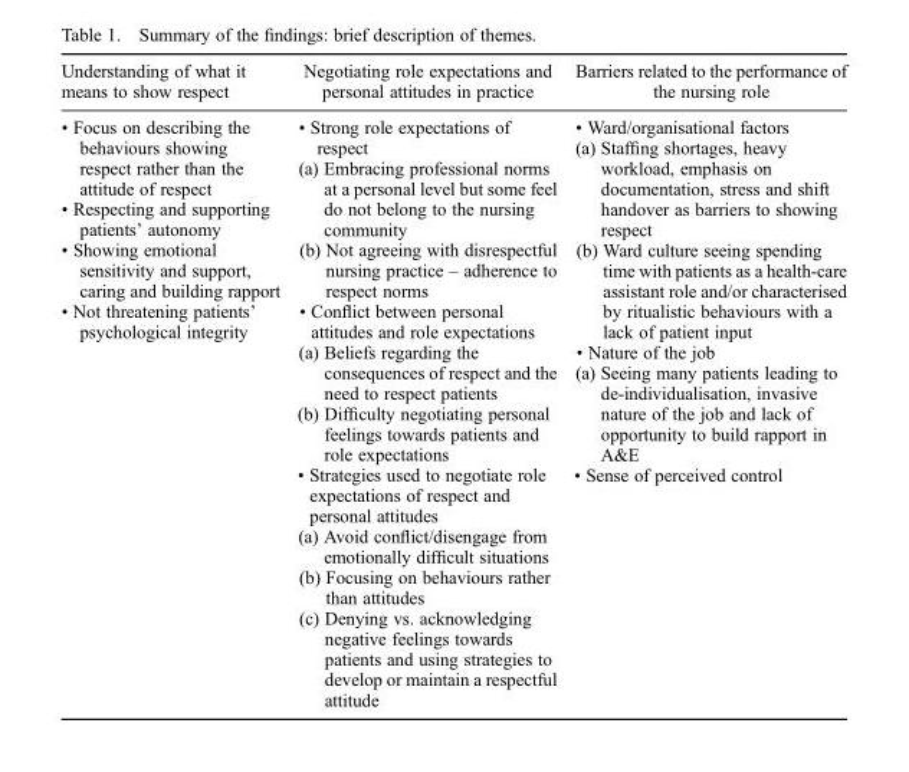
<table><thead><tr><td>Understanding of what it means to show respect</td><td>Negotiating role expectations and personal attitudes in practice</td><td>Barriers related to the performance of the nursing role</td></tr></thead><tbody><tr><td>• Focus on describing the behaviours showing respect rather than the attitude of respect • Respecting and supporting patients’ autonomy • Showing emotional sensitivity and support, caring and building rapport • Not threatening patients’ psychological integrity</td><td>• Strong role expectations of respect (a) Embracing professional norms at a personal level but some feel do not belong to the nursing community (b) Not agreeing with disrespectful nursing practice – adherence to respect norms • Conflict between personal attitudes and role expectations (a) Beliefs regarding the consequences of respect and the need to respect patients (b) Difficulty negotiating personal feelings towards patients and role expectations • Strategies used to negotiate role expectations of respect and personal attitudes (a) Avoid conflict/disengage from emotionally difficult situations (b) Focusing on behaviours rather than attitudes (c) Denying vs. acknowledging negative feelings towards patients and using strategies to develop or maintain a respectful attitude</td><td>• Ward/organisational factors (a) Staffing shortages, heavy workload, emphasis on documentation, stress and shift handover as barriers to showing respect (b) Ward culture seeing spending time with patients as a health-care assistant role and/or characterised by ritualistic behaviours with a lack of patient input • Nature of the job (a) Seeing many patients leading to de-individualisation, invasive nature of the job and lack of opportunity to build rapport in A&amp;E • Sense of perceived control</td></tr></tbody></table>